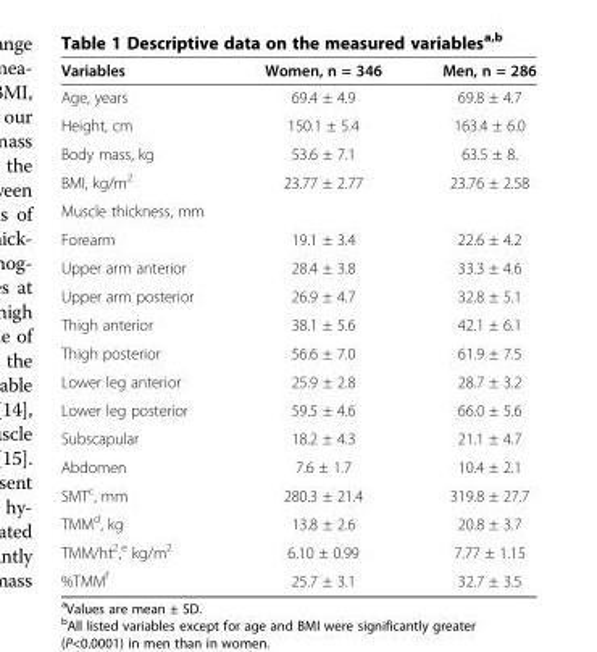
<table><thead><tr><td>Variables</td><td>Women, n = 346</td><td>Men, n = 286</td></tr></thead><tbody><tr><td>Age, years</td><td>69.4 ± 4.9</td><td>69.8 ± 4.7</td></tr><tr><td>Height, cm</td><td>150.1 ± 5.4</td><td>163.4 ± 6.0</td></tr><tr><td>Body mass, kg</td><td>53.6 ± 7.1</td><td>63.5 ± 8.</td></tr><tr><td>BMI, kg/m<sup>2</sup></td><td>23.77 ± 2.77</td><td>23.76 ± 2.58</td></tr><tr><td colspan="3">Muscle thickness, mm</td></tr><tr><td>Forearm</td><td>19.1 ± 3.4</td><td>22.6 ± 4.2</td></tr><tr><td>Upper arm anterior</td><td>28.4 ± 3.8</td><td>33.3 ± 4.6</td></tr><tr><td>Upper arm posterior</td><td>26.9 ± 4.7</td><td>32.8 ± 5.1</td></tr><tr><td>Thigh anterior</td><td>38.1 ± 5.6</td><td>42.1 ± 6.1</td></tr><tr><td>Thigh posterior</td><td>56.6 ± 7.0</td><td>61.9 ± 7.5</td></tr><tr><td>Lower leg anterior</td><td>25.9 ± 2.8</td><td>28.7 ± 3.2</td></tr><tr><td>Lower leg posterior</td><td>59.5 ± 4.6</td><td>66.0 ± 5.6</td></tr><tr><td>Subscapular</td><td>18.2 ± 4.3</td><td>21.1 ± 4.7</td></tr><tr><td>Abdomen</td><td>7.6 ± 1.7</td><td>10.4 ± 2.1</td></tr><tr><td>SMT<sup>c</sup>, mm</td><td>280.3 ± 21.4</td><td>319.8 ± 27.7</td></tr><tr><td>TMM<sup>d</sup>, kg</td><td>13.8 ± 2.6</td><td>20.8 ± 3.7</td></tr><tr><td>TMM/ht<sup>2</sup>,<sup>e</sup> kg/m<sup>2</sup></td><td>6.10 ± 0.99</td><td>7.77 ± 1.15</td></tr><tr><td>%TMM<sup>f</sup></td><td>25.7 ± 3.1</td><td>32.7 ± 3.5</td></tr></tbody></table>